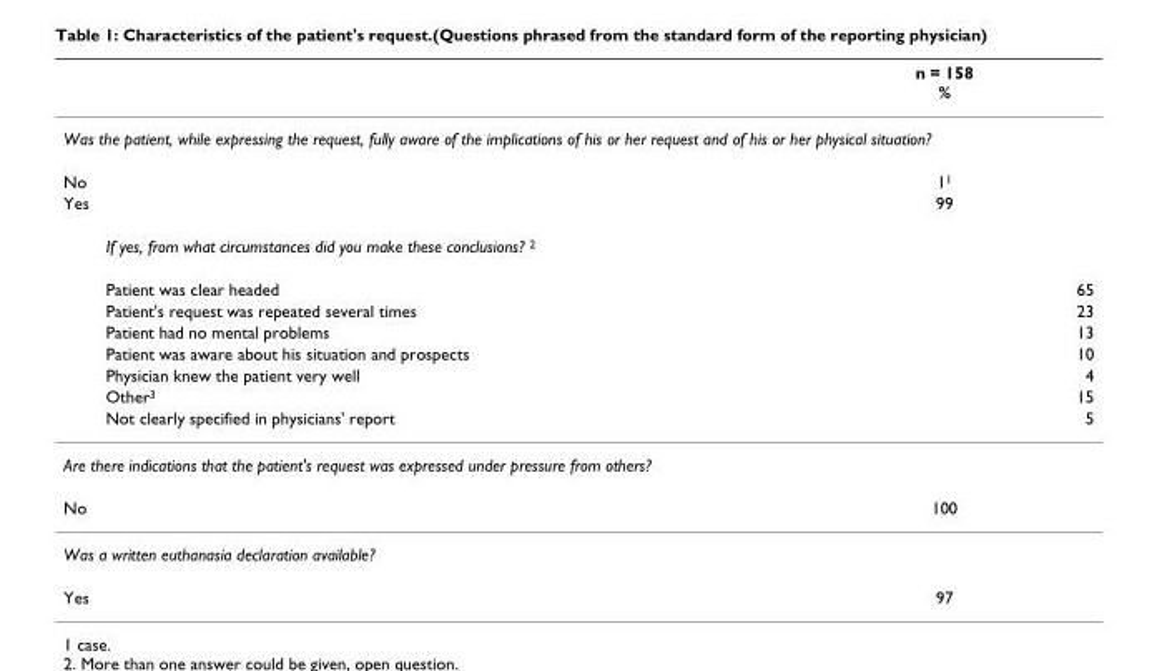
<table><thead><tr><td></td><td>n = 158 %</td></tr></thead><tbody><tr><td colspan="2">Was the patient, while expressing the request, fully aware of the implications of his or her request and of his or her physical situation?</td></tr><tr><td>No</td><td>1<sup>1</sup></td></tr><tr><td>Yes</td><td>99</td></tr><tr><td colspan="2">If yes, from what circumstances did you make these conclusions? <sup>2</sup></td></tr><tr><td>Patient was clear headed</td><td>65</td></tr><tr><td>Patient&#x27;s request was repeated several times</td><td>23</td></tr><tr><td>Patient had no mental problems</td><td>13</td></tr><tr><td>Patient was aware about his situation and prospects</td><td>10</td></tr><tr><td>Physician knew the patient very well</td><td>4</td></tr><tr><td>Other<sup>3</sup></td><td>15</td></tr><tr><td>Not clearly specified in physicians&#x27; report</td><td>5</td></tr><tr><td colspan="2">Are there indications that the patient&#x27;s request was expressed under pressure from others?</td></tr><tr><td>No</td><td>100</td></tr><tr><td colspan="2">Was a written euthanasia declaration available?</td></tr><tr><td>Yes</td><td>97</td></tr></tbody></table>